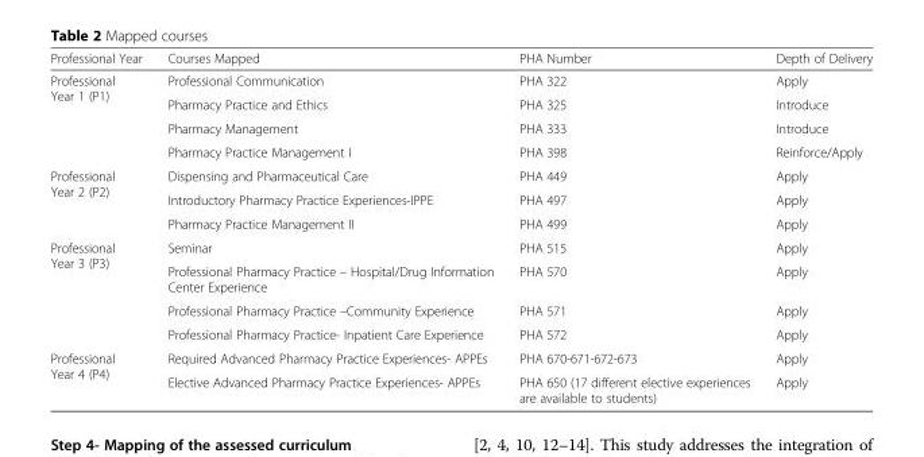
<table><thead><tr><td>Professional Year</td><td>Courses Mapped</td><td>PHA Number</td><td>Depth of Delivery</td></tr></thead><tbody><tr><td rowspan="4">Professional Year 1 (P1)</td><td>Professional Communication</td><td>PHA 322</td><td>Apply</td></tr><tr><td>Pharmacy Practice and Ethics</td><td>PHA 325</td><td>Introduce</td></tr><tr><td>Pharmacy Management</td><td>PHA 333</td><td>Introduce</td></tr><tr><td>Pharmacy Practice Management I</td><td>PHA 398</td><td>Reinforce/Apply</td></tr><tr><td rowspan="3">Professional Year 2 (P2)</td><td>Dispensing and Pharmaceutical Care</td><td>PHA 449</td><td>Apply</td></tr><tr><td>Introductory Pharmacy Practice Experiences-IPPE</td><td>PHA 497</td><td>Apply</td></tr><tr><td>Pharmacy Practice Management II</td><td>PHA 499</td><td>Apply</td></tr><tr><td rowspan="4">Professional Year 3 (P3)</td><td>Seminar</td><td>PHA 515</td><td>Apply</td></tr><tr><td>Professional Pharmacy Practice – Hospital/Drug Information Center Experience</td><td>PHA 570</td><td>Apply</td></tr><tr><td>Professional Pharmacy Practice –Community Experience</td><td>PHA 571</td><td>Apply</td></tr><tr><td>Professional Pharmacy Practice- Inpatient Care Experience</td><td>PHA 572</td><td>Apply</td></tr><tr><td rowspan="2">Professional Year 4 (P4)</td><td>Required Advanced Pharmacy Practice Experiences- APPEs</td><td>PHA 670-671-672-673</td><td>Apply</td></tr><tr><td>Elective Advanced Pharmacy Practice Experiences- APPEs</td><td>PHA 650 (17 different elective experiences are available to students)</td><td>Apply</td></tr></tbody></table>